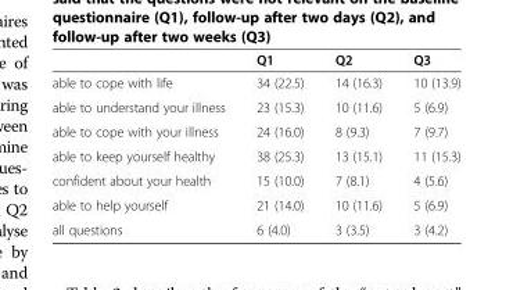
<table><thead><tr><td></td><td>Q1</td><td>Q2</td><td>Q3</td></tr></thead><tbody><tr><td>able to cope with life</td><td>34 (22.5)</td><td>14 (16.3)</td><td>10 (13.9)</td></tr><tr><td>able to understand your illness</td><td>23 (15.3)</td><td>10 (11.6)</td><td>5 (6.9)</td></tr><tr><td>able to cope with your illness</td><td>24 (16.0)</td><td>8 (9.3)</td><td>7 (9.7)</td></tr><tr><td>able to keep yourself healthy</td><td>38 (25.3)</td><td>13 (15.1)</td><td>11 (15.3)</td></tr><tr><td>confident about your health</td><td>15 (10.0)</td><td>7 (8.1)</td><td>4 (5.6)</td></tr><tr><td>able to help yourself</td><td>21 (14.0)</td><td>10 (11.6)</td><td>5 (6.9)</td></tr><tr><td>all questions</td><td>6 (4.0)</td><td>3 (3.5)</td><td>3 (4.2)</td></tr></tbody></table>